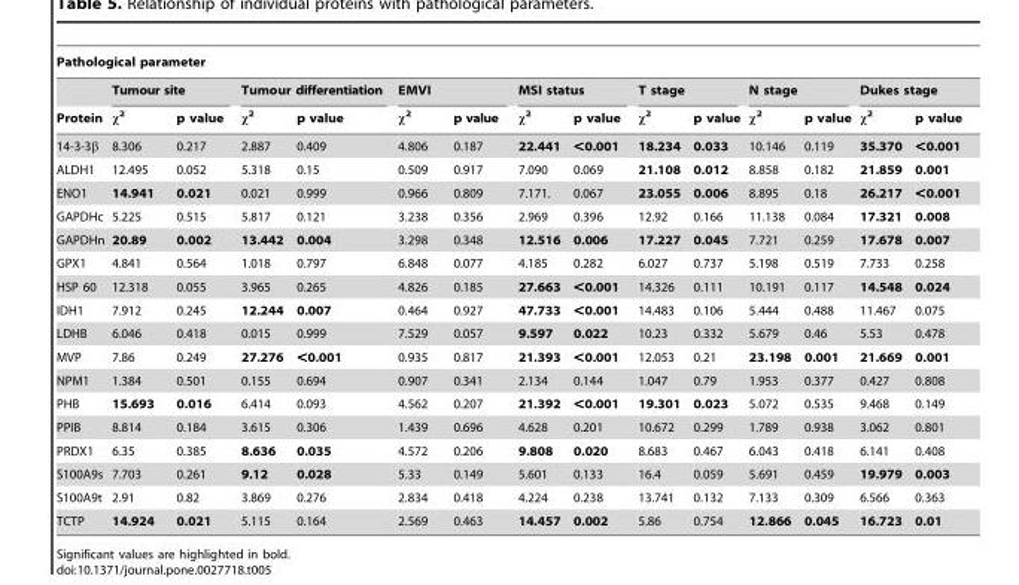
<table><thead><tr><td colspan="15">Pathological parameter</td></tr><tr><td rowspan="2">Protein</td><td colspan="2">Tumour site</td><td colspan="2">Tumour differentiation</td><td colspan="2">EMVI</td><td colspan="2">MSI status</td><td colspan="2">T stage</td><td colspan="2">N stage</td><td colspan="2">Dukes stage</td></tr><tr><td>χ<sup>2</sup></td><td>p value</td><td>χ<sup>2</sup></td><td>p value</td><td>χ<sup>2</sup></td><td>p value</td><td>χ<sup>2</sup></td><td>p value</td><td>χ<sup>2</sup></td><td>p value</td><td>χ<sup>2</sup></td><td>p value</td><td>χ<sup>2</sup></td><td>p value</td></tr></thead><tbody><tr><td>14-3-3β</td><td>8.306</td><td>0.217</td><td>2.887</td><td>0.409</td><td>4.806</td><td>0.187</td><td>22.441</td><td>&lt;0.001</td><td>18.234</td><td>0.033</td><td>10.146</td><td>0.119</td><td>35.370</td><td>&lt;0.001</td></tr><tr><td>ALDH1</td><td>12.495</td><td>0.052</td><td>5.318</td><td>0.15</td><td>0.509</td><td>0.917</td><td>7.090</td><td>0.069</td><td>21.108</td><td>0.012</td><td>8.858</td><td>0.182</td><td>21.859</td><td>0.001</td></tr><tr><td>ENO1</td><td>14.941</td><td>0.021</td><td>0.021</td><td>0.999</td><td>0.966</td><td>0.809</td><td>7.171.</td><td>0.067</td><td>23.055</td><td>0.006</td><td>8.895</td><td>0.18</td><td>26.217</td><td>&lt;0.001</td></tr><tr><td>GAPDHc</td><td>5.225</td><td>0.515</td><td>5.817</td><td>0.121</td><td>3.238</td><td>0.356</td><td>2.969</td><td>0.396</td><td>12.92</td><td>0.166</td><td>11.138</td><td>0.084</td><td>17.321</td><td>0.008</td></tr><tr><td>GAPDHn</td><td>20.89</td><td>0.002</td><td>13.442</td><td>0.004</td><td>3.298</td><td>0.348</td><td>12.516</td><td>0.006</td><td>17.227</td><td>0.045</td><td>7.721</td><td>0.259</td><td>17.678</td><td>0.007</td></tr><tr><td>GPX1</td><td>4.841</td><td>0.564</td><td>1.018</td><td>0.797</td><td>6.848</td><td>0.077</td><td>4.185</td><td>0.282</td><td>6.027</td><td>0.737</td><td>5.198</td><td>0.519</td><td>7.733</td><td>0.258</td></tr><tr><td>HSP 60</td><td>12.318</td><td>0.055</td><td>3.965</td><td>0.265</td><td>4.826</td><td>0.185</td><td>27.663</td><td>&lt;0.001</td><td>14.326</td><td>0.111</td><td>10.191</td><td>0.117</td><td>14.548</td><td>0.024</td></tr><tr><td>IDH1</td><td>7.912</td><td>0.245</td><td>12.244</td><td>0.007</td><td>0.464</td><td>0.927</td><td>47.733</td><td>&lt;0.001</td><td>14.483</td><td>0.106</td><td>5.444</td><td>0.488</td><td>11.467</td><td>0.075</td></tr><tr><td>LDHB</td><td>6.046</td><td>0.418</td><td>0.015</td><td>0.999</td><td>7.529</td><td>0.057</td><td>9.597</td><td>0.022</td><td>10.23</td><td>0.332</td><td>5.679</td><td>0.46</td><td>5.53</td><td>0.478</td></tr><tr><td>MVP</td><td>7.86</td><td>0.249</td><td>27.276</td><td>&lt;0.001</td><td>0.935</td><td>0.817</td><td>21.393</td><td>&lt;0.001</td><td>12.053</td><td>0.21</td><td>23.198</td><td>0.001</td><td>21.669</td><td>0.001</td></tr><tr><td>NPM1</td><td>1.384</td><td>0.501</td><td>0.155</td><td>0.694</td><td>0.907</td><td>0.341</td><td>2.134</td><td>0.144</td><td>1.047</td><td>0.79</td><td>1.953</td><td>0.377</td><td>0.427</td><td>0.808</td></tr><tr><td>PHB</td><td>15.693</td><td>0.016</td><td>6.414</td><td>0.093</td><td>4.562</td><td>0.207</td><td>21.392</td><td>&lt;0.001</td><td>19.301</td><td>0.023</td><td>5.072</td><td>0.535</td><td>9.468</td><td>0.149</td></tr><tr><td>PPIB</td><td>8.814</td><td>0.184</td><td>3.615</td><td>0.306</td><td>1.439</td><td>0.696</td><td>4.628</td><td>0.201</td><td>10.672</td><td>0.299</td><td>1.789</td><td>0.938</td><td>3.062</td><td>0.801</td></tr><tr><td>PRDX1</td><td>6.35</td><td>0.385</td><td>8.636</td><td>0.035</td><td>4.572</td><td>0.206</td><td>9.808</td><td>0.020</td><td>8.683</td><td>0.467</td><td>6.043</td><td>0.418</td><td>6.141</td><td>0.408</td></tr><tr><td>S100A9s</td><td>7.703</td><td>0.261</td><td>9.12</td><td>0.028</td><td>5.33</td><td>0.149</td><td>5.601</td><td>0.133</td><td>16.4</td><td>0.059</td><td>5.691</td><td>0.459</td><td>19.979</td><td>0.003</td></tr><tr><td>S100A9t</td><td>2.91</td><td>0.82</td><td>3.869</td><td>0.276</td><td>2.834</td><td>0.418</td><td>4.224</td><td>0.238</td><td>13.741</td><td>0.132</td><td>7.133</td><td>0.309</td><td>6.566</td><td>0.363</td></tr><tr><td>TCTP</td><td>14.924</td><td>0.021</td><td>5.115</td><td>0.164</td><td>2.569</td><td>0.463</td><td>14.457</td><td>0.002</td><td>5.86</td><td>0.754</td><td>12.866</td><td>0.045</td><td>16.723</td><td>0.01</td></tr></tbody></table>